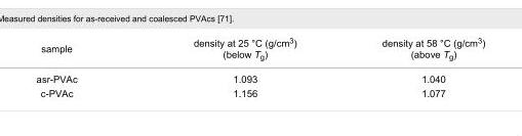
<table><tbody><tr><td>sample</td><td>density at 25 °C (g/cm<sup>3</sup>) (below T<sub>g</sub>)</td><td>density at 58 °C (g/cm<sup>3</sup>) (above T<sub>g</sub>)</td></tr><tr><td>asr-PVAc</td><td>1.093</td><td>1.040</td></tr><tr><td>c-PVAc</td><td>1.156</td><td>1.077</td></tr></tbody></table>